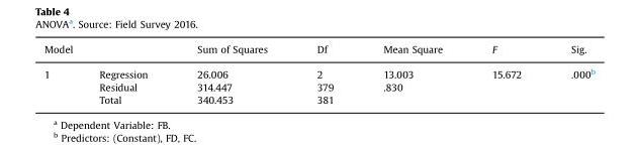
<table><thead><tr><td colspan="2">Model</td><td rowspan="2">Sum of Squares 26.006</td><td rowspan="2">Df 2</td><td rowspan="2">Mean Square 13.003</td><td rowspan="2">F 15.672</td><td rowspan="2">Sig. .000<sup>b</sup></td></tr><tr><td>1</td><td>Regression</td></tr></thead><tbody><tr><td></td><td>Residual</td><td>314.447</td><td>379</td><td>.830</td><td></td><td></td></tr><tr><td></td><td>Total</td><td>340.453</td><td>381</td><td></td><td></td><td></td></tr></tbody></table>